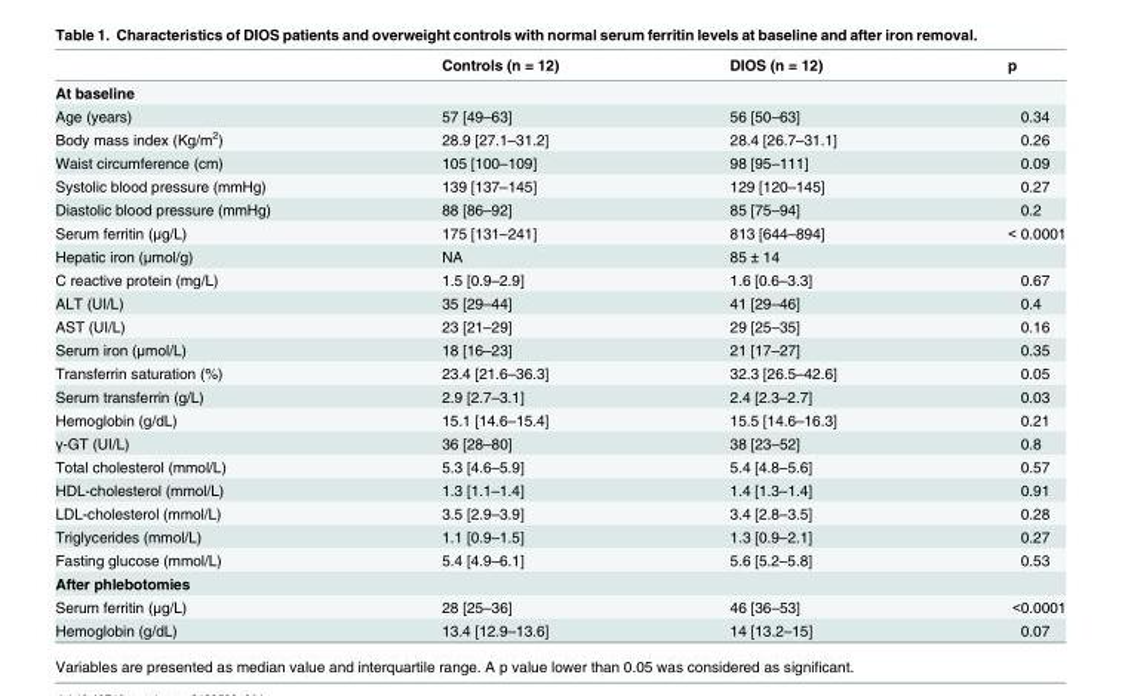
<table><thead><tr><td></td><td>Controls (n = 12)</td><td>DIOS (n = 12)</td><td>p</td></tr></thead><tbody><tr><td colspan="4">At baseline</td></tr><tr><td>Age (years)</td><td>57 [49–63]</td><td>56 [50–63]</td><td>0.34</td></tr><tr><td>Body mass index (Kg/m<sup>2</sup>)</td><td>28.9 [27.1–31.2]</td><td>28.4 [26.7–31.1]</td><td>0.26</td></tr><tr><td>Waist circumference (cm)</td><td>105 [100–109]</td><td>98 [95–111]</td><td>0.09</td></tr><tr><td>Systolic blood pressure (mmHg)</td><td>139 [137–145]</td><td>129 [120–145]</td><td>0.27</td></tr><tr><td>Diastolic blood pressure (mmHg)</td><td>88 [86–92]</td><td>85 [75–94]</td><td>0.2</td></tr><tr><td>Serum ferritin (μg/L)</td><td>175 [131–241]</td><td>813 [644–894]</td><td>&lt; 0.0001</td></tr><tr><td>Hepatic iron (μmol/g)</td><td>NA</td><td>85 ± 14</td><td></td></tr><tr><td>C reactive protein (mg/L)</td><td>1.5 [0.9–2.9]</td><td>1.6 [0.6–3.3]</td><td>0.67</td></tr><tr><td>ALT (UI/L)</td><td>35 [29–44]</td><td>41 [29–46]</td><td>0.4</td></tr><tr><td>AST (UI/L)</td><td>23 [21–29]</td><td>29 [25–35]</td><td>0.16</td></tr><tr><td>Serum iron (μmol/L)</td><td>18 [16–23]</td><td>21 [17–27]</td><td>0.35</td></tr><tr><td>Transferrin saturation (%)</td><td>23.4 [21.6–36.3]</td><td>32.3 [26.5–42.6]</td><td>0.05</td></tr><tr><td>Serum transferrin (g/L)</td><td>2.9 [2.7–3.1]</td><td>2.4 [2.3–2.7]</td><td>0.03</td></tr><tr><td>Hemoglobin (g/dL)</td><td>15.1 [14.6–15.4]</td><td>15.5 [14.6–16.3]</td><td>0.21</td></tr><tr><td>γ-GT (UI/L)</td><td>36 [28–80]</td><td>38 [23–52]</td><td>0.8</td></tr><tr><td>Total cholesterol (mmol/L)</td><td>5.3 [4.6–5.9]</td><td>5.4 [4.8–5.6]</td><td>0.57</td></tr><tr><td>HDL-cholesterol (mmol/L)</td><td>1.3 [1.1–1.4]</td><td>1.4 [1.3–1.4]</td><td>0.91</td></tr><tr><td>LDL-cholesterol (mmol/L)</td><td>3.5 [2.9–3.9]</td><td>3.4 [2.8–3.5]</td><td>0.28</td></tr><tr><td>Triglycerides (mmol/L)</td><td>1.1 [0.9–1.5]</td><td>1.3 [0.9–2.1]</td><td>0.27</td></tr><tr><td>Fasting glucose (mmol/L)</td><td>5.4 [4.9–6.1]</td><td>5.6 [5.2–5.8]</td><td>0.53</td></tr><tr><td colspan="4">After phlebotomies</td></tr><tr><td>Serum ferritin (μg/L)</td><td>28 [25–36]</td><td>46 [36–53]</td><td>&lt;0.0001</td></tr><tr><td>Hemoglobin (g/dL)</td><td>13.4 [12.9–13.6]</td><td>14 [13.2–15]</td><td>0.07</td></tr></tbody></table>